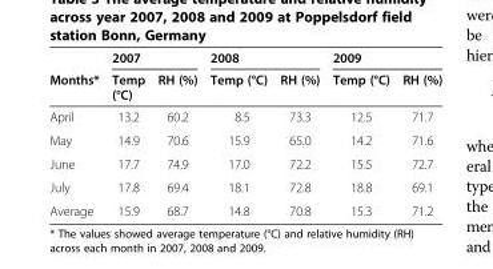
<table><thead><tr><td rowspan="2">Months*</td><td colspan="2">2007</td><td colspan="2">2008</td><td colspan="2">2009</td></tr><tr><td>Temp (°C)</td><td>RH (%)</td><td>Temp (°C)</td><td>RH (%)</td><td>Temp (°C)</td><td>RH (%)</td></tr></thead><tbody><tr><td>April</td><td>13.2</td><td>60.2</td><td>8.5</td><td>73.3</td><td>12.5</td><td>71.7</td></tr><tr><td>May</td><td>14.9</td><td>70.6</td><td>15.9</td><td>65.0</td><td>14.2</td><td>71.6</td></tr><tr><td>June</td><td>17.7</td><td>74.9</td><td>17.0</td><td>72.2</td><td>15.5</td><td>72.7</td></tr><tr><td>July</td><td>17.8</td><td>69.4</td><td>18.1</td><td>72.8</td><td>18.8</td><td>69.1</td></tr><tr><td>Average</td><td>15.9</td><td>68.7</td><td>14.8</td><td>70.8</td><td>15.3</td><td>71.2</td></tr></tbody></table>